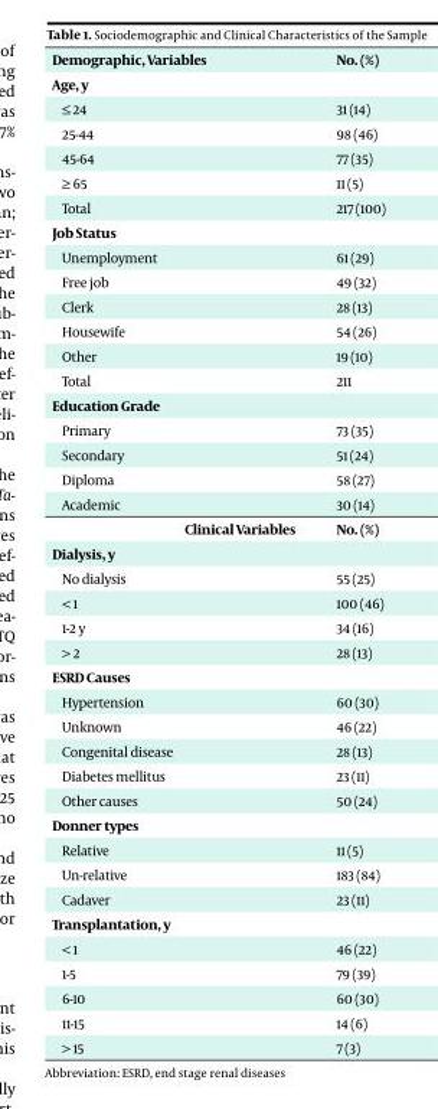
<table><thead><tr><td>Demographic, Variables</td><td>No. (%)</td></tr></thead><tbody><tr><td colspan="2">Age, y</td></tr><tr><td>≤ 24</td><td>31 (14)</td></tr><tr><td>25-44</td><td>98 (46)</td></tr><tr><td>45-64</td><td>77 (35)</td></tr><tr><td>≥ 65</td><td>11 (5)</td></tr><tr><td>Total</td><td>217 (100)</td></tr><tr><td colspan="2">Job Status</td></tr><tr><td>Unemployment</td><td>61 (29)</td></tr><tr><td>Free job</td><td>49 (32)</td></tr><tr><td>Clerk</td><td>28 (13)</td></tr><tr><td>Housewife</td><td>54 (26)</td></tr><tr><td>Other</td><td>19 (10)</td></tr><tr><td>Total</td><td>211</td></tr><tr><td colspan="2">Education Grade</td></tr><tr><td>Primary</td><td>73 (35)</td></tr><tr><td>Secondary</td><td>51 (24)</td></tr><tr><td>Diploma</td><td>58 (27)</td></tr><tr><td>Academic</td><td>30 (14)</td></tr><tr><td>Clinical Variables</td><td>No. (%)</td></tr><tr><td colspan="2">Dialysis, y</td></tr><tr><td>No dialysis</td><td>55 (25)</td></tr><tr><td>&lt; 1</td><td>100 (46)</td></tr><tr><td>1-2 y</td><td>34 (16)</td></tr><tr><td>&gt; 2</td><td>28 (13)</td></tr><tr><td colspan="2">ESRD Causes</td></tr><tr><td>Hypertension</td><td>60 (30)</td></tr><tr><td>Unknown</td><td>46 (22)</td></tr><tr><td>Congenital disease</td><td>28 (13)</td></tr><tr><td>Diabetes mellitus</td><td>23 (11)</td></tr><tr><td>Other causes</td><td>50 (24)</td></tr><tr><td colspan="2">Donner types</td></tr><tr><td>Relative</td><td>11 (5)</td></tr><tr><td>Un-relative</td><td>183 (84)</td></tr><tr><td>Cadaver</td><td>23 (11)</td></tr><tr><td colspan="2">Transplantation, y</td></tr><tr><td>&lt; 1</td><td>46 (22)</td></tr><tr><td>1-5</td><td>79 (39)</td></tr><tr><td>6-10</td><td>60 (30)</td></tr><tr><td>11-15</td><td>14 (6)</td></tr><tr><td>&gt; 15</td><td>7 (3)</td></tr></tbody></table>